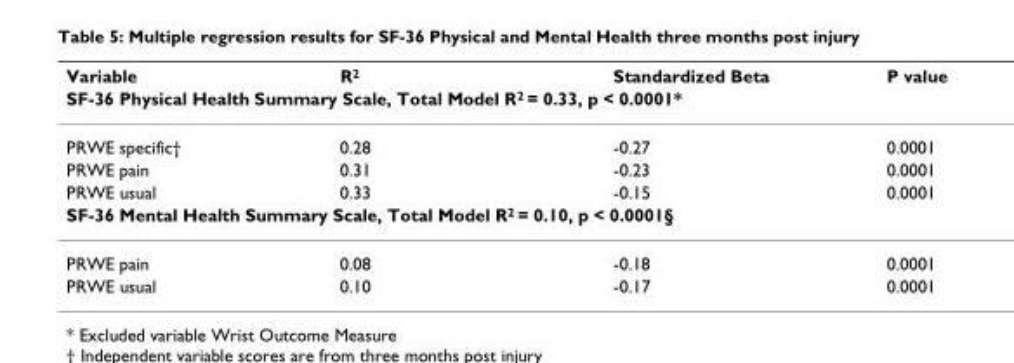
<table><thead><tr><td>Variable</td><td>R<sup>2</sup></td><td>Standardized Beta</td><td>P value</td></tr><tr><td colspan="4">SF-36 Physical Health Summary Scale, Total Model R<sup>2</sup> = 0.33, p &lt; 0.0001*</td></tr></thead><tbody><tr><td>PRWE specific†</td><td>0.28</td><td>-0.27</td><td>0.0001</td></tr><tr><td>PRWE pain</td><td>0.31</td><td>-0.23</td><td>0.0001</td></tr><tr><td>PRWE usual</td><td>0.33</td><td>-0.15</td><td>0.0001</td></tr><tr><td colspan="4">SF-36 Mental Health Summary Scale, Total Model R<sup>2</sup> = 0.10, p &lt; 0.0001§</td></tr><tr><td>PRWE pain</td><td>0.08</td><td>-0.18</td><td>0.0001</td></tr><tr><td>PRWE usual</td><td>0.10</td><td>-0.17</td><td>0.0001</td></tr></tbody></table>